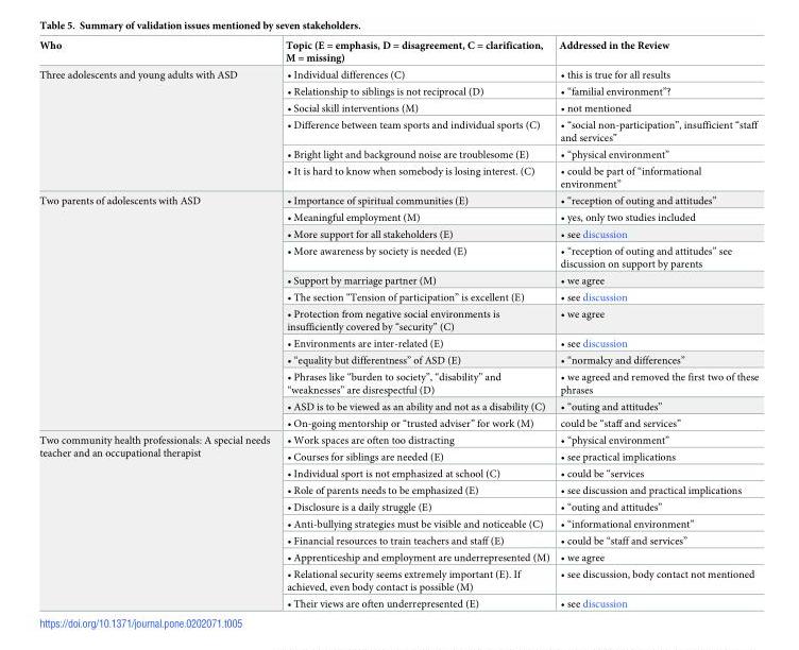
<table><thead><tr><td>Who</td><td>Topic (E = emphasis, D = disagreement, C = clarification, M = missing)</td><td>Addressed in the Review</td></tr></thead><tbody><tr><td rowspan="6">Three adolescents and young adults with ASD</td><td>• Individual differences (C)</td><td>• this is true for all results</td></tr><tr><td>• Relationship to siblings is not reciprocal (D)</td><td>• “familial environment”?</td></tr><tr><td>• Social skill interventions (M)</td><td>• not mentioned</td></tr><tr><td>• Difference between team sports and individual sports (C)</td><td>• “social non-participation”, insufficient “staff and services”</td></tr><tr><td>• Bright light and background noise are troublesome (E)</td><td>• “physical environment”</td></tr><tr><td>• It is hard to know when somebody is losing interest. (C)</td><td>• could be part of “informational environment”</td></tr><tr><td rowspan="12">Two parents of adolescents with ASD</td><td>• Importance of spiritual communities (E)</td><td>• “reception of outing and attitudes”</td></tr><tr><td>• Meaningful employment (M)</td><td>• yes, only two studies included</td></tr><tr><td>• More support for all stakeholders (E)</td><td>• see discussion</td></tr><tr><td>• More awareness by society is needed (E)</td><td>• “reception of outing and attitudes” see discussion on support by parents</td></tr><tr><td>• Support by marriage partner (M)</td><td>• we agree</td></tr><tr><td>• The section “Tension of participation” is excellent (E)</td><td>• see discussion</td></tr><tr><td>• Protection from negative social environments is insufficiently covered by “security” (C)</td><td>• we agree</td></tr><tr><td>• Environments are inter-related (E)</td><td>• see discussion</td></tr><tr><td>• “equality but differentness” of ASD (E)</td><td>• “normalcy and differences”</td></tr><tr><td>• Phrases like “burden to society”, “disability” and “weaknesses” are disrespectful (D)</td><td>• we agreed and removed the first two of these phrases</td></tr><tr><td>• ASD is to be viewed as an ability and not as a disability (C)</td><td>• “outing and attitudes”</td></tr><tr><td>• On-going mentorship or “trusted adviser” for work (M)</td><td>could be “staff and services”</td></tr><tr><td rowspan="10">Two community health professionals: A special needs teacher and an occupational therapist</td><td>• Work spaces are often too distracting</td><td>• “physical environment”</td></tr><tr><td>• Courses for siblings are needed (E)</td><td>• see practical implications</td></tr><tr><td>• Individual sport is not emphasized at school (C)</td><td>• could be “services</td></tr><tr><td>• Role of parents needs to be emphasized (E)</td><td>• see discussion and practical implications</td></tr><tr><td>• Disclosure is a daily struggle (E)</td><td>• “outing and attitudes”</td></tr><tr><td>• Anti-bullying strategies must be visible and noticeable (C)</td><td>• “informational environment”</td></tr><tr><td>• Financial resources to train teachers and staff (E)</td><td>• could be “staff and services”</td></tr><tr><td>• Apprenticeship and employment are underrepresented (M)</td><td>• we agree</td></tr><tr><td>• Relational security seems extremely important (E). If achieved, even body contact is possible (M)</td><td>• see discussion, body contact not mentioned</td></tr><tr><td>• Their views are often underrepresented (E)</td><td>• see discussion</td></tr></tbody></table>